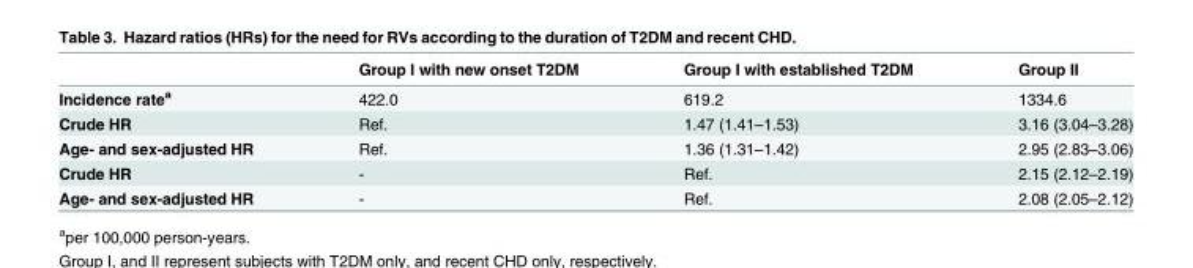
<table><thead><tr><td></td><td>Group I with new onset T2DM</td><td>Group I with established T2DM</td><td>Group II</td></tr></thead><tbody><tr><td>Incidence rate<sup>a</sup></td><td>422.0</td><td>619.2</td><td>1334.6</td></tr><tr><td>Crude HR</td><td>Ref.</td><td>1.47 (1.41–1.53)</td><td>3.16 (3.04–3.28)</td></tr><tr><td>Age- and sex-adjusted HR</td><td>Ref.</td><td>1.36 (1.31–1.42)</td><td>2.95 (2.83–3.06)</td></tr><tr><td>Crude HR</td><td>-</td><td>Ref.</td><td>2.15 (2.12–2.19)</td></tr><tr><td>Age- and sex-adjusted HR</td><td>-</td><td>Ref.</td><td>2.08 (2.05–2.12)</td></tr></tbody></table>